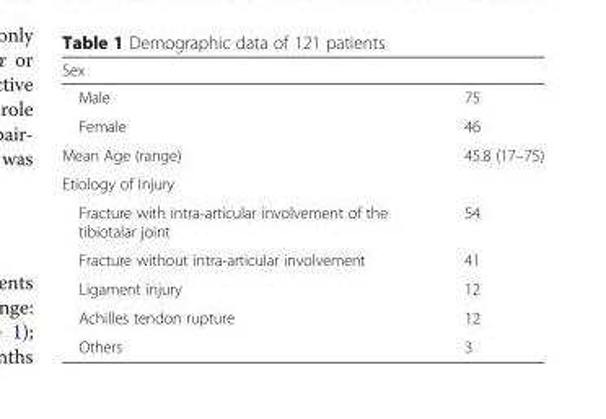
<table><thead><tr><td colspan="2">Sex</td></tr><tr><td>Male</td><td>75</td></tr></thead><tbody><tr><td>Female</td><td>46</td></tr><tr><td>Mean Age (range)</td><td>45.8 (17–75)</td></tr><tr><td colspan="2">Etiology of Injury</td></tr><tr><td>Fracture with intra-articular involvement of the tibiotalar joint</td><td>54</td></tr><tr><td>Fracture without intra-articular involvement</td><td>41</td></tr><tr><td>Ligament injury</td><td>12</td></tr><tr><td>Achilles tendon rupture</td><td>12</td></tr><tr><td>Others</td><td>3</td></tr></tbody></table>